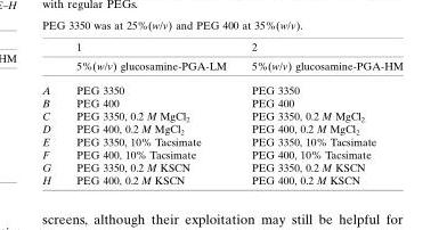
<table><thead><tr><td rowspan="2"></td><td rowspan="2">1 5%(w/v) glucosamine-PGA-LM</td><td rowspan="2">2 5%(w/v) glucosamine-PGA-HM</td></tr><tr></tr></thead><tbody><tr><td>A</td><td>PEG 3350</td><td>PEG 3350</td></tr><tr><td>B</td><td>PEG 400</td><td>PEG 400</td></tr><tr><td>C</td><td>PEG 3350, 0.2 M MgCl<sub>2</sub></td><td>PEG 3350, 0.2 M MgCl<sub>2</sub></td></tr><tr><td>D</td><td>PEG 400, 0.2 M MgCl<sub>2</sub></td><td>PEG 400, 0.2 M MgCl<sub>2</sub></td></tr><tr><td>E</td><td>PEG 3350, 10% Tacsimate</td><td>PEG 3350, 10% Tacsimate</td></tr><tr><td>F</td><td>PEG 400, 10% Tacsimate</td><td>PEG 400, 10% Tacsimate</td></tr><tr><td>G</td><td>PEG 3350, 0.2 M KSCN</td><td>PEG 3350, 0.2 M KSCN</td></tr><tr><td>H</td><td>PEG 400, 0.2 M KSCN</td><td>PEG 400, 0.2 M KSCN</td></tr></tbody></table>